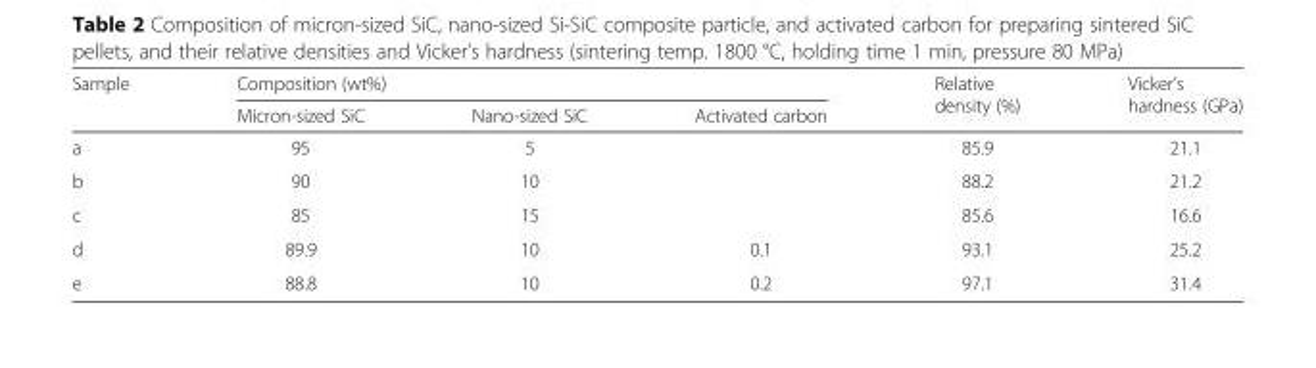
<table><thead><tr><td rowspan="2">Sample</td><td colspan="3">Composition (wt%)</td><td rowspan="2">Relative density (%)</td><td rowspan="2">Vicker’s hardness (GPa)</td></tr><tr><td>Micron-sized SiC</td><td>Nano-sized SiC</td><td>Activated carbon</td></tr></thead><tbody><tr><td>a</td><td>95</td><td>5</td><td></td><td>85.9</td><td>21.1</td></tr><tr><td>b</td><td>90</td><td>10</td><td></td><td>88.2</td><td>21.2</td></tr><tr><td>c</td><td>85</td><td>15</td><td></td><td>85.6</td><td>16.6</td></tr><tr><td>d</td><td>89.9</td><td>10</td><td>0.1</td><td>93.1</td><td>25.2</td></tr><tr><td>e</td><td>88.8</td><td>10</td><td>0.2</td><td>97.1</td><td>31.4</td></tr></tbody></table>